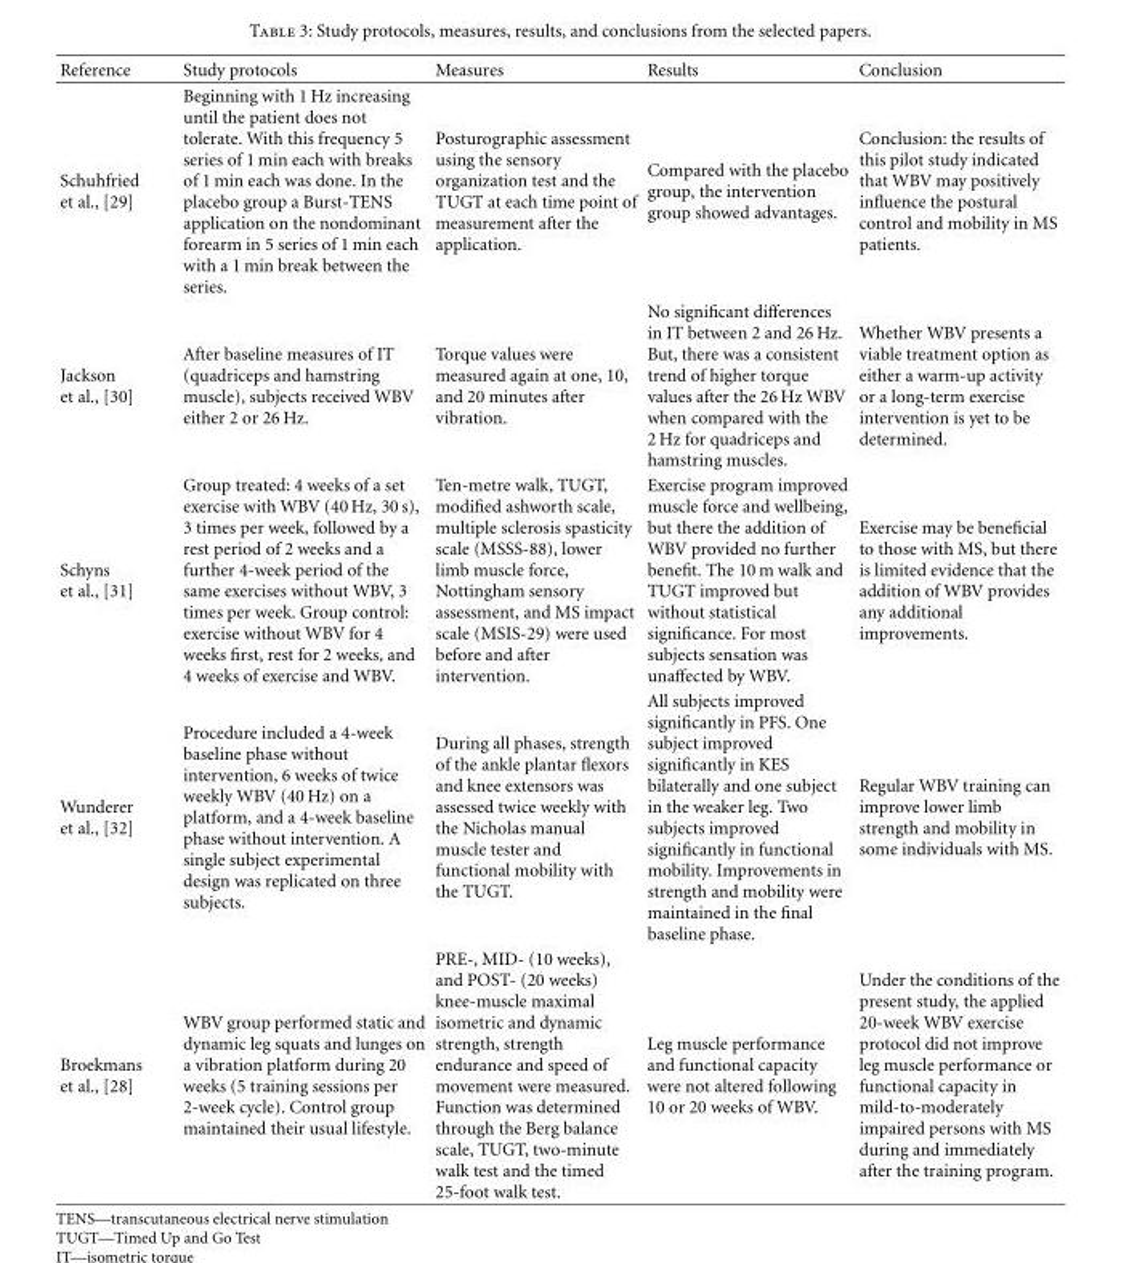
<table><thead><tr><td>Reference</td><td>Study protocols</td><td>Measures</td><td>Results</td><td>Conclusion</td></tr></thead><tbody><tr><td>Schuhfried et al., [29]</td><td>Beginning with 1 Hz increasing until the patient does not tolerate. With this frequency 5 series of 1 min each with breaks of 1 min each was done. In the placebo group a Burst-TENS application on the nondominant forearm in 5 series of 1 min each with a 1 min break between the series.</td><td>Posturographic assessment using the sensory organization test and the TUGT at each time point of measurement after the application.</td><td>Compared with the placebo group, the intervention group showed advantages.</td><td>Conclusion: the results of this pilot study indicated that WBV may positively influence the postural control and mobility in MS patients.</td></tr><tr><td>Jackson et al., [30]</td><td>After baseline measures of IT (quadriceps and hamstring muscle), subjects received WBV either 2 or 26 Hz.</td><td>Torque values were measured again at one, 10, and 20 minutes after vibration.</td><td>No significant differences in IT between 2 and 26 Hz. But, there was a consistent trend of higher torque values after the 26 Hz WBV when compared with the 2 Hz for quadriceps and hamstring muscles.</td><td>Whether WBV presents a viable treatment option as either a warm-up activity or a long-term exercise intervention is yet to be determined.</td></tr><tr><td>Schyns et al., [31]</td><td>Group treated: 4 weeks of a set exercise with WBV (40 Hz, 30 s), 3 times per week, followed by a rest period of 2 weeks and a further 4-week period of the same exercises without WBV, 3 times per week. Group control: exercise without WBV for 4 weeks first, rest for 2 weeks, and 4 weeks of exercise and WBV.</td><td>Ten-metre walk, TUGT, modified ashworth scale, multiple sclerosis spasticity scale (MSSS-88), lower limb muscle force, Nottingham sensory assessment, and MS impact scale (MSIS-29) were used before and after intervention.</td><td>Exercise program improved muscle force and wellbeing, but there the addition of WBV provided no further benefit. The 10 m walk and TUGT improved but without statistical significance. For most subjects sensation was unaffected by WBV.</td><td>Exercise may be beneficial to those with MS, but there is limited evidence that the addition of WBV provides any additional improvements.</td></tr><tr><td>Wunderer et al., [32]</td><td>Procedure included a 4-week baseline phase without intervention, 6 weeks of twice weekly WBV (40 Hz) on a platform, and a 4-week baseline phase without intervention. A single subject experimental design was replicated on three subjects.</td><td>During all phases, strength of the ankle plantar flexors and knee extensors was assessed twice weekly with the Nicholas manual muscle tester and functional mobility with the TUGT.</td><td>All subjects improved significantly in PFS. One subject improved significantly in KES bilaterally and one subject in the weaker leg. Two subjects improved significantly in functional mobility. Improvements in strength and mobility were maintained in the final baseline phase.</td><td>Regular WBV training can improve lower limb strength and mobility in some individuals with MS.</td></tr><tr><td>Broekmans et al., [28]</td><td>WBV group performed static and dynamic leg squats and lunges on a vibration platform during 20 weeks (5 training sessions per 2-week cycle). Control group maintained their usual lifestyle.</td><td>PRE-, MID- (10 weeks), and POST- (20 weeks) knee-muscle maximal isometric and dynamic strength, strength endurance and speed of movement were measured. Function was determined through the Berg balance scale, TUGT, two-minute walk test and the timed 25-foot walk test.</td><td>Leg muscle performance and functional capacity were not altered following 10 or 20 weeks of WBV.</td><td>Under the conditions of the present study, the applied 20-week WBV exercise protocol did not improve leg muscle performance or functional capacity in mild-to-moderately impaired persons with MS during and immediately after the training program.</td></tr></tbody></table>